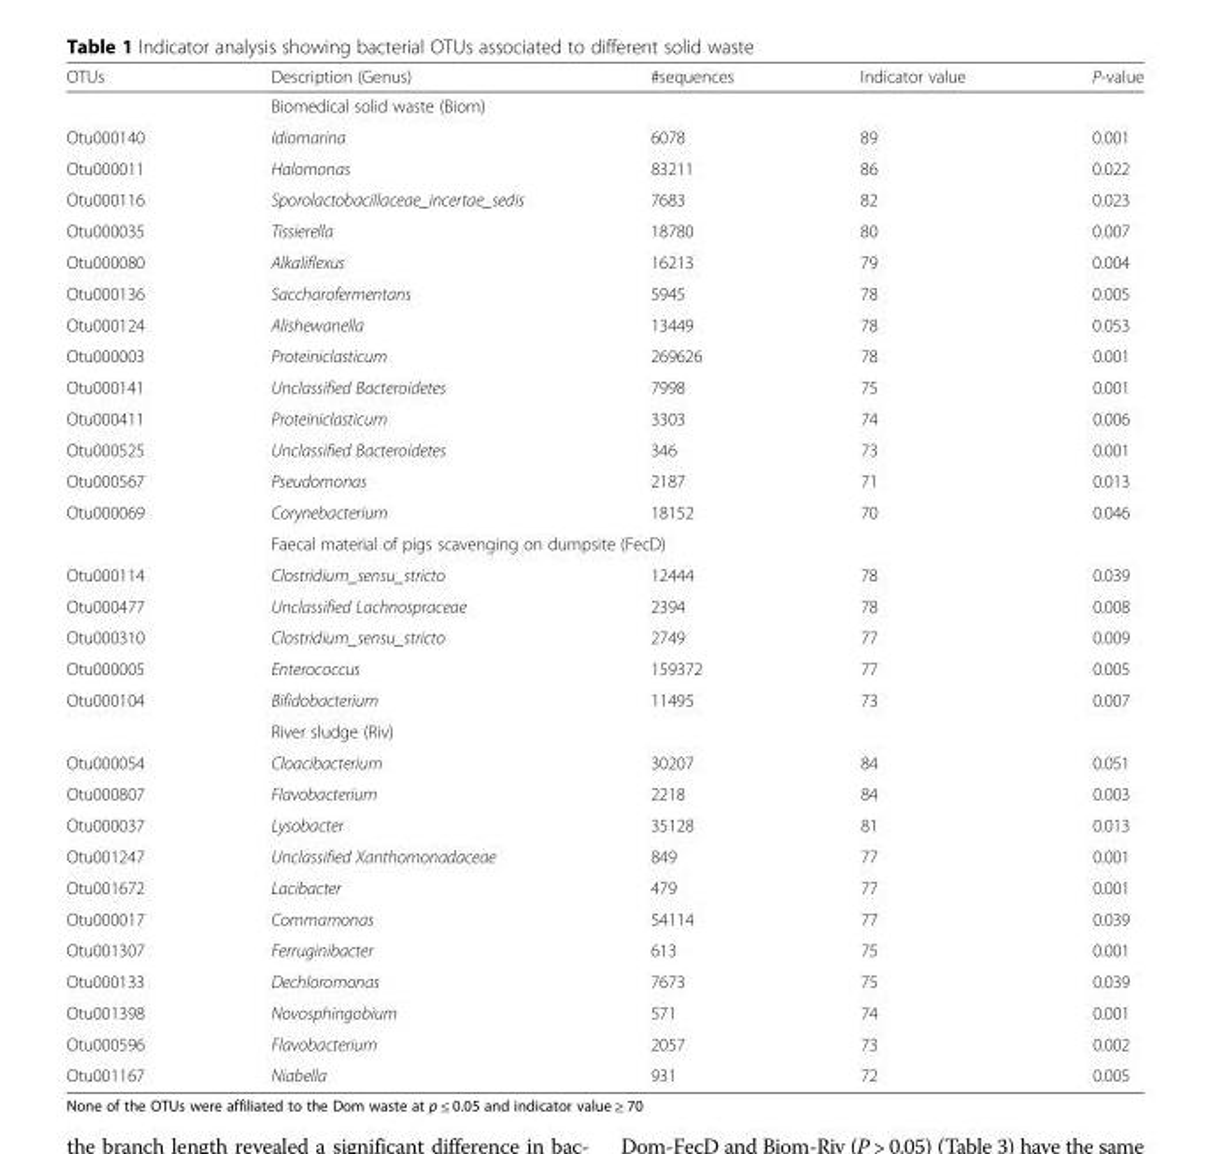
<table><thead><tr><td>OTUs</td><td>Description (Genus)</td><td>#sequences</td><td>Indicator value</td><td>P-value</td></tr></thead><tbody><tr><td></td><td colspan="4">Biomedical solid waste (Biom)</td></tr><tr><td>Otu000140</td><td>Idiomarina</td><td>6078</td><td>89</td><td>0.001</td></tr><tr><td>Otu000011</td><td>Halomonas</td><td>83211</td><td>86</td><td>0.022</td></tr><tr><td>Otu000116</td><td>Sporolactobacillaceae_incertae_sedis</td><td>7683</td><td>82</td><td>0.023</td></tr><tr><td>Otu000035</td><td>Tissierella</td><td>18780</td><td>80</td><td>0.007</td></tr><tr><td>Otu000080</td><td>Alkaliflexus</td><td>16213</td><td>79</td><td>0.004</td></tr><tr><td>Otu000136</td><td>Saccharofermentans</td><td>5945</td><td>78</td><td>0.005</td></tr><tr><td>Otu000124</td><td>Alishewanella</td><td>13449</td><td>78</td><td>0.053</td></tr><tr><td>Otu000003</td><td>Proteiniclasticum</td><td>269626</td><td>78</td><td>0.001</td></tr><tr><td>Otu000141</td><td>Unclassified Bacteroidetes</td><td>7998</td><td>75</td><td>0.001</td></tr><tr><td>Otu000411</td><td>Proteiniclasticum</td><td>3303</td><td>74</td><td>0.006</td></tr><tr><td>Otu000525</td><td>Unclassified Bacteroidetes</td><td>346</td><td>73</td><td>0.001</td></tr><tr><td>Otu000567</td><td>Pseudomonas</td><td>2187</td><td>71</td><td>0.013</td></tr><tr><td rowspan="2">Otu000069</td><td>Corynebacterium</td><td>18152</td><td>70</td><td>0.046</td></tr><tr><td colspan="4">Faecal material of pigs scavenging on dumpsite (FecD)</td></tr><tr><td>Otu000114</td><td>Clostridium_sensu_stricto</td><td>12444</td><td>78</td><td>0.039</td></tr><tr><td>Otu000477</td><td>Unclassified Lachnospraceae</td><td>2394</td><td>78</td><td>0.008</td></tr><tr><td>Otu000310</td><td>Clostridium_sensu_stricto</td><td>2749</td><td>77</td><td>0.009</td></tr><tr><td>Otu000005</td><td>Enterococcus</td><td>159372</td><td>77</td><td>0.005</td></tr><tr><td rowspan="2">Otu000104</td><td>Bifidobacterium</td><td>11495</td><td>73</td><td>0.007</td></tr><tr><td colspan="4">River sludge (Riv)</td></tr><tr><td>Otu000054</td><td>Cloacibacterium</td><td>30207</td><td>84</td><td>0.051</td></tr><tr><td>Otu000807</td><td>Flavobacterium</td><td>2218</td><td>84</td><td>0.003</td></tr><tr><td>Otu000037</td><td>Lysobacter</td><td>35128</td><td>81</td><td>0.013</td></tr><tr><td>Otu001247</td><td>Unclassified Xanthomonadaceae</td><td>849</td><td>77</td><td>0.001</td></tr><tr><td>Otu001672</td><td>Lacibacter</td><td>479</td><td>77</td><td>0.001</td></tr><tr><td>Otu000017</td><td>Commamonas</td><td>54114</td><td>77</td><td>0.039</td></tr><tr><td>Otu001307</td><td>Ferruginibacter</td><td>613</td><td>75</td><td>0.001</td></tr><tr><td>Otu000133</td><td>Dechloromonas</td><td>7673</td><td>75</td><td>0.039</td></tr><tr><td>Otu001398</td><td>Novosphingobium</td><td>571</td><td>74</td><td>0.001</td></tr><tr><td>Otu000596</td><td>Flavobacterium</td><td>2057</td><td>73</td><td>0.002</td></tr><tr><td>Otu001167</td><td>Niabella</td><td>931</td><td>72</td><td>0.005</td></tr></tbody></table>